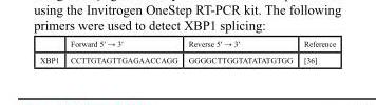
<table><thead><tr><td></td><td>Forward 5ʹ → 3ʹ</td><td>Reverse 5ʹ → 3ʹ</td><td>Reference</td></tr></thead><tbody><tr><td>XBP1</td><td>CCTTGTAGTTGAGAACCAGG</td><td>GGGGCTTGGTATATATGTGG</td><td>[36]</td></tr></tbody></table>